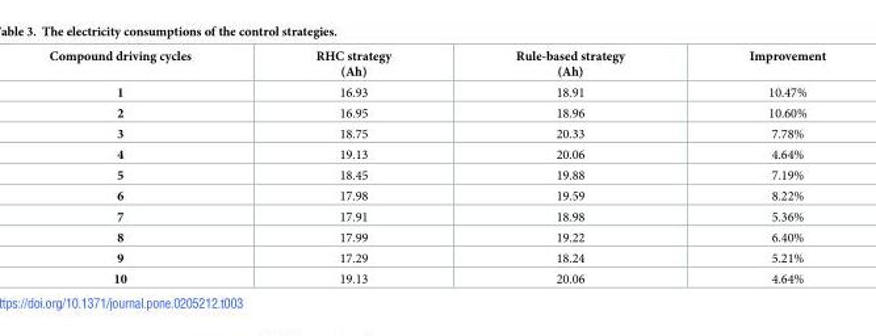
<table><thead><tr><td>Compound driving cycles</td><td>RHC strategy (Ah)</td><td>Rule-based strategy (Ah)</td><td>Improvement</td></tr></thead><tbody><tr><td>1</td><td>16.93</td><td>18.91</td><td>10.47%</td></tr><tr><td>2</td><td>16.95</td><td>18.96</td><td>10.60%</td></tr><tr><td>3</td><td>18.75</td><td>20.33</td><td>7.78%</td></tr><tr><td>4</td><td>19.13</td><td>20.06</td><td>4.64%</td></tr><tr><td>5</td><td>18.45</td><td>19.88</td><td>7.19%</td></tr><tr><td>6</td><td>17.98</td><td>19.59</td><td>8.22%</td></tr><tr><td>7</td><td>17.91</td><td>18.98</td><td>5.36%</td></tr><tr><td>8</td><td>17.99</td><td>19.22</td><td>6.40%</td></tr><tr><td>9</td><td>17.29</td><td>18.24</td><td>5.21%</td></tr><tr><td>10</td><td>19.13</td><td>20.06</td><td>4.64%</td></tr></tbody></table>